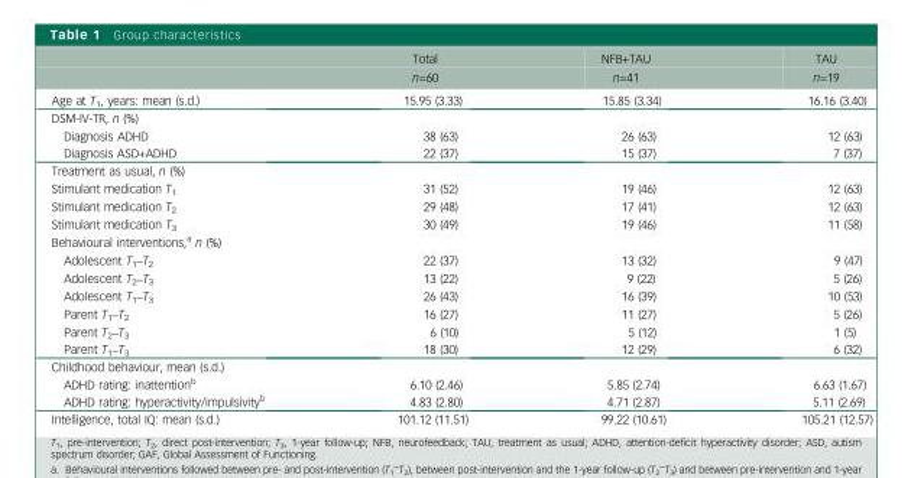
<table><thead><tr><td rowspan="2"></td><td rowspan="2">Total n=60</td><td rowspan="2">NFB+TAU n=41</td><td rowspan="2">TAU n=19</td></tr><tr></tr></thead><tbody><tr><td>Age at T1, years: mean (s.d.)</td><td>15.95 (3.33)</td><td>15.85 (3.34)</td><td>16.16 (3.40)</td></tr><tr><td colspan="4">DSM-IV-TR, n (%)</td></tr><tr><td>Diagnosis ADHD</td><td>38 (63)</td><td>26 (63)</td><td>12 (63)</td></tr><tr><td>Diagnosis ASD+ADHD</td><td>22 (37)</td><td>15 (37)</td><td>7 (37)</td></tr><tr><td colspan="4">Treatment as usual, n (%)</td></tr><tr><td>Stimulant medication T<sub>1</sub></td><td>31 (52)</td><td>19 (46)</td><td>12 (63)</td></tr><tr><td>Stimulant medication T<sub>2</sub></td><td>29 (48)</td><td>17 (41)</td><td>12 (63)</td></tr><tr><td>Stimulant medication T<sub>3</sub></td><td>30 (49)</td><td>19 (46)</td><td>11 (58)</td></tr><tr><td colspan="4">Behavioural interventions,<sup>a</sup> n (%)</td></tr><tr><td>Adolescent T<sub>1</sub>–T<sub>2</sub></td><td>22 (37)</td><td>13 (32)</td><td>9 (47)</td></tr><tr><td>Adolescent T<sub>2</sub>–T<sub>3</sub></td><td>13 (22)</td><td>9 (22)</td><td>5 (26)</td></tr><tr><td>Adolescent T<sub>1</sub>–T<sub>3</sub></td><td>26 (43)</td><td>16 (39)</td><td>10 (53)</td></tr><tr><td>Parent T<sub>1</sub>–T<sub>2</sub></td><td>16 (27)</td><td>11 (27)</td><td>5 (26)</td></tr><tr><td>Parent T<sub>2</sub>–T<sub>3</sub></td><td>6 (10)</td><td>5 (12)</td><td>1 (5)</td></tr><tr><td>Parent T<sub>1</sub>–T<sub>3</sub></td><td>18 (30)</td><td>12 (29)</td><td>6 (32)</td></tr><tr><td colspan="4">Childhood behaviour, mean (s.d.)</td></tr><tr><td>ADHD rating: inattention<sup>b</sup></td><td>6.10 (2.46)</td><td>5.85 (2.74)</td><td>6.63 (1.67)</td></tr><tr><td>ADHD rating: hyperactivity/impulsivity<sup>b</sup></td><td>4.83 (2.80)</td><td>4.71 (2.87)</td><td>5.11 (2.69)</td></tr><tr><td>Intelligence, total IQ: mean (s.d.)</td><td>101.12 (11.51)</td><td>99.22 (10.61)</td><td>105.21 (12.57)</td></tr></tbody></table>